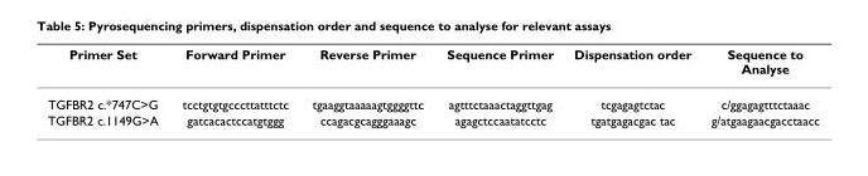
<table><thead><tr><td>Primer Set</td><td>Forward Primer</td><td>Reverse Primer</td><td>Sequence Primer</td><td>Dispensation order</td><td>Sequence to Analyse</td></tr></thead><tbody><tr><td>TGFBR2 c.*747C&gt;G</td><td>tcctgtgtgcccttatttctc</td><td>tgaaggtaaaaagtggggttc</td><td>agtttctaaactaggttgag</td><td>tcgagagtctac</td><td>c/ggagagtttctaaac</td></tr><tr><td>TGFBR2 c.1149G&gt;A</td><td>gatcacactccatgtggg</td><td>ccagacgcagggaaagc</td><td>agagctccaatatcctc</td><td>tgatgagacgac tac</td><td>g/atgaagaacgacctaacc</td></tr></tbody></table>